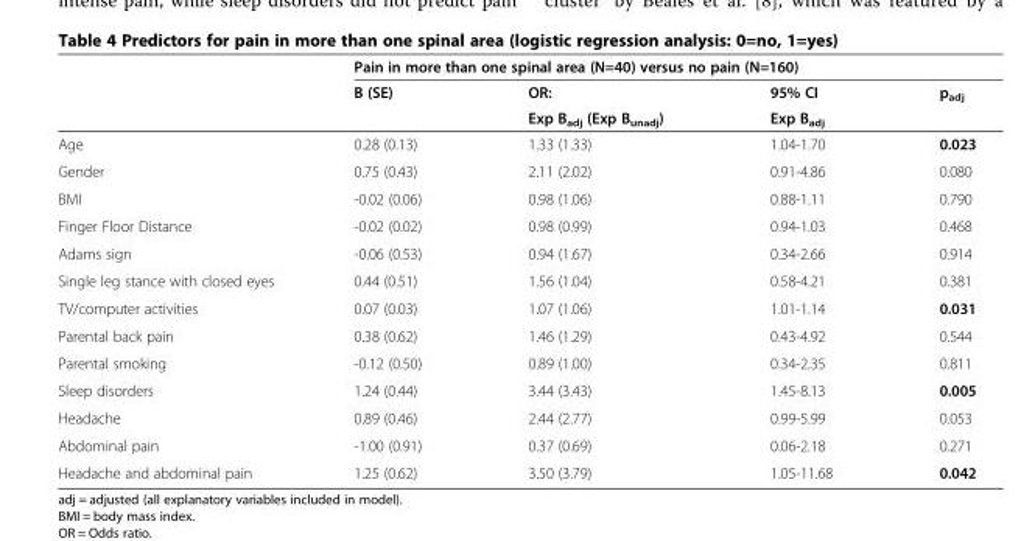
<table><thead><tr><td rowspan="3"></td><td colspan="4">Pain in more than one spinal area (N=40) versus no pain (N=160)</td></tr><tr><td rowspan="2">B (SE)</td><td rowspan="2">OR: Exp B<sub>adj</sub> (Exp B<sub>unadj</sub>)</td><td rowspan="2">95% CI Exp B<sub>adj</sub></td><td rowspan="2">p<sub>adj</sub></td></tr><tr></tr></thead><tbody><tr><td>Age</td><td>0.28 (0.13)</td><td>1.33 (1.33)</td><td>1.04-1.70</td><td>0.023</td></tr><tr><td>Gender</td><td>0.75 (0.43)</td><td>2.11 (2.02)</td><td>0.91-4.86</td><td>0.080</td></tr><tr><td>BMI</td><td>-0.02 (0.06)</td><td>0.98 (1.06)</td><td>0.88-1.11</td><td>0.790</td></tr><tr><td>Finger Floor Distance</td><td>-0.02 (0.02)</td><td>0.98 (0.99)</td><td>0.94-1.03</td><td>0.468</td></tr><tr><td>Adams sign</td><td>-0.06 (0.53)</td><td>0.94 (1.67)</td><td>0.34-2.66</td><td>0.914</td></tr><tr><td>Single leg stance with closed eyes</td><td>0.44 (0.51)</td><td>1.56 (1.04)</td><td>0.58-4.21</td><td>0.381</td></tr><tr><td>TV/computer activities</td><td>0.07 (0.03)</td><td>1.07 (1.06)</td><td>1.01-1.14</td><td>0.031</td></tr><tr><td>Parental back pain</td><td>0.38 (0.62)</td><td>1.46 (1.29)</td><td>0.43-4.92</td><td>0.544</td></tr><tr><td>Parental smoking</td><td>-0.12 (0.50)</td><td>0.89 (1.00)</td><td>0.34-2.35</td><td>0.811</td></tr><tr><td>Sleep disorders</td><td>1.24 (0.44)</td><td>3.44 (3.43)</td><td>1.45-8.13</td><td>0.005</td></tr><tr><td>Headache</td><td>0.89 (0.46)</td><td>2.44 (2.77)</td><td>0.99-5.99</td><td>0.053</td></tr><tr><td>Abdominal pain</td><td>-1.00 (0.91)</td><td>0.37 (0.69)</td><td>0.06-2.18</td><td>0.271</td></tr><tr><td>Headache and abdominal pain</td><td>1.25 (0.62)</td><td>3.50 (3.79)</td><td>1.05-11.68</td><td>0.042</td></tr></tbody></table>